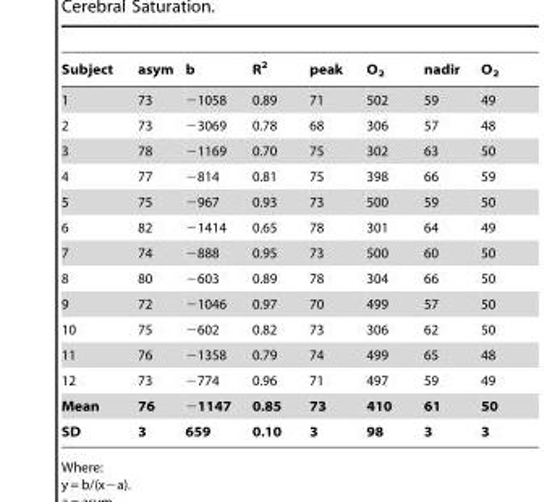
<table><thead><tr><td>Subject</td><td>asym</td><td>b</td><td>R<sup>2</sup></td><td>peak</td><td>O<sub>2</sub></td><td>nadir</td><td>O<sub>2</sub></td></tr></thead><tbody><tr><td>1</td><td>73</td><td>−1058</td><td>0.89</td><td>71</td><td>502</td><td>59</td><td>49</td></tr><tr><td>2</td><td>73</td><td>−3069</td><td>0.78</td><td>68</td><td>306</td><td>57</td><td>48</td></tr><tr><td>3</td><td>78</td><td>−1169</td><td>0.70</td><td>75</td><td>302</td><td>63</td><td>50</td></tr><tr><td>4</td><td>77</td><td>−814</td><td>0.81</td><td>75</td><td>398</td><td>66</td><td>59</td></tr><tr><td>5</td><td>75</td><td>−967</td><td>0.93</td><td>73</td><td>500</td><td>59</td><td>50</td></tr><tr><td>6</td><td>82</td><td>−1414</td><td>0.65</td><td>78</td><td>301</td><td>64</td><td>49</td></tr><tr><td>7</td><td>74</td><td>−888</td><td>0.95</td><td>73</td><td>500</td><td>60</td><td>50</td></tr><tr><td>8</td><td>80</td><td>−603</td><td>0.89</td><td>78</td><td>304</td><td>66</td><td>50</td></tr><tr><td>9</td><td>72</td><td>−1046</td><td>0.97</td><td>70</td><td>499</td><td>57</td><td>50</td></tr><tr><td>10</td><td>75</td><td>−602</td><td>0.82</td><td>73</td><td>306</td><td>62</td><td>50</td></tr><tr><td>11</td><td>76</td><td>−1358</td><td>0.79</td><td>74</td><td>499</td><td>65</td><td>48</td></tr><tr><td>12</td><td>73</td><td>−774</td><td>0.96</td><td>71</td><td>497</td><td>59</td><td>49</td></tr><tr><td>Mean</td><td>76</td><td>−1147</td><td>0.85</td><td>73</td><td>410</td><td>61</td><td>50</td></tr><tr><td>SD</td><td>3</td><td>659</td><td>0.10</td><td>3</td><td>98</td><td>3</td><td>3</td></tr></tbody></table>